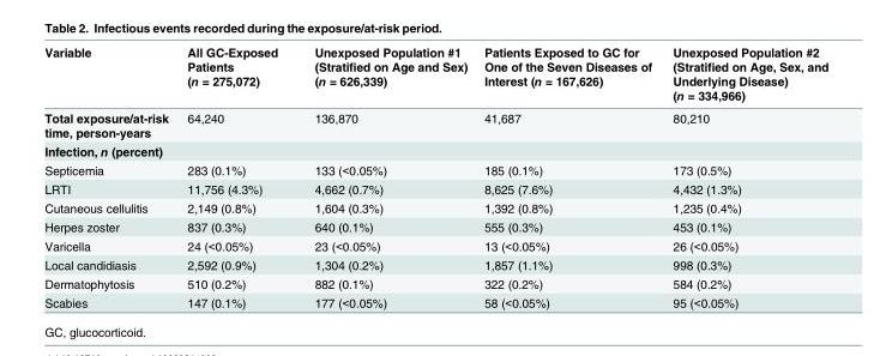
<table><thead><tr><td>Variable</td><td>All GC-Exposed Patients (n = 275,072)</td><td>Unexposed Population #1 (Stratified on Age and Sex) (n = 626,339)</td><td>Patients Exposed to GC for One of the Seven Diseases of Interest (n = 167,626)</td><td>Unexposed Population #2 (Stratified on Age, Sex, and Underlying Disease) (n = 334,966)</td></tr></thead><tbody><tr><td>Total exposure/at-risk time, person-years</td><td>64,240</td><td>136,870</td><td>41,687</td><td>80,210</td></tr><tr><td colspan="5">Infection, n (percent)</td></tr><tr><td>Septicemia</td><td>283 (0.1%)</td><td>133 (&lt;0.05%)</td><td>185 (0.1%)</td><td>173 (0.5%)</td></tr><tr><td>LRTI</td><td>11,756 (4.3%)</td><td>4,662 (0.7%)</td><td>8,625 (7.6%)</td><td>4,432 (1.3%)</td></tr><tr><td>Cutaneous cellulitis</td><td>2,149 (0.8%)</td><td>1,604 (0.3%)</td><td>1,392 (0.8%)</td><td>1,235 (0.4%)</td></tr><tr><td>Herpes zoster</td><td>837 (0.3%)</td><td>640 (0.1%)</td><td>555 (0.3%)</td><td>453 (0.1%)</td></tr><tr><td>Varicella</td><td>24 (&lt;0.05%)</td><td>23 (&lt;0.05%)</td><td>13 (&lt;0.05%)</td><td>26 (&lt;0.05%)</td></tr><tr><td>Local candidiasis</td><td>2,592 (0.9%)</td><td>1,304 (0.2%)</td><td>1,857 (1.1%)</td><td>998 (0.3%)</td></tr><tr><td>Dermatophytosis</td><td>510 (0.2%)</td><td>882 (0.1%)</td><td>322 (0.2%)</td><td>584 (0.2%)</td></tr><tr><td>Scabies</td><td>147 (0.1%)</td><td>177 (&lt;0.05%)</td><td>58 (&lt;0.05%)</td><td>95 (&lt;0.05%)</td></tr></tbody></table>